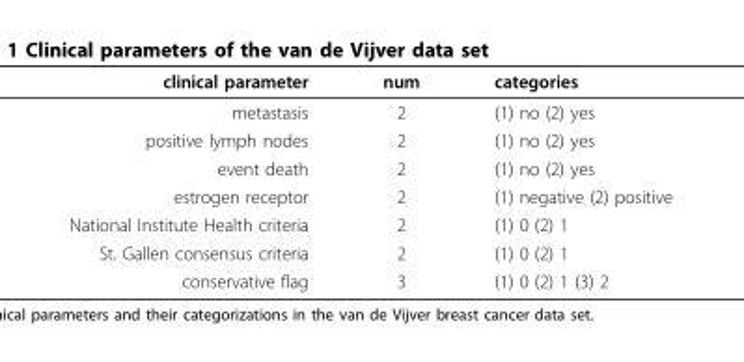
<table><thead><tr><td>clinical parameter</td><td>num</td><td>categories</td></tr></thead><tbody><tr><td>metastasis</td><td>2</td><td>(1) no (2) yes</td></tr><tr><td>positive lymph nodes</td><td>2</td><td>(1) no (2) yes</td></tr><tr><td>event death</td><td>2</td><td>(1) no (2) yes</td></tr><tr><td>estrogen receptor</td><td>2</td><td>(1) negative (2) positive</td></tr><tr><td>National Institute Health criteria</td><td>2</td><td>(1) 0 (2) 1</td></tr><tr><td>St. Gallen consensus criteria</td><td>2</td><td>(1) 0 (2) 1</td></tr><tr><td>conservative flag</td><td>3</td><td>(1) 0 (2) 1 (3) 2</td></tr></tbody></table>